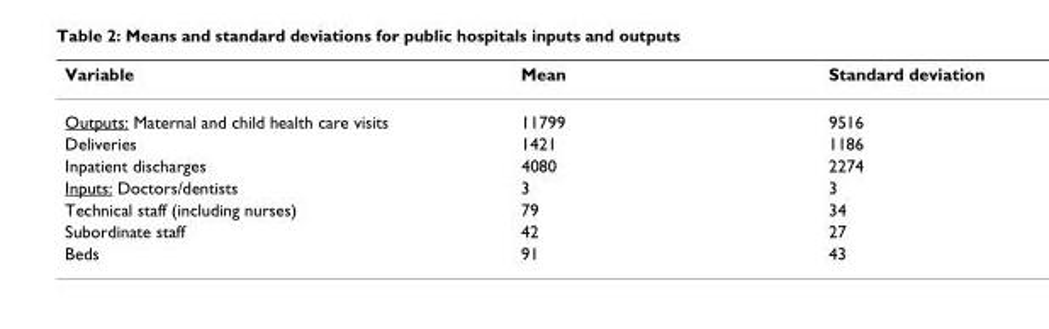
<table><thead><tr><td>Variable</td><td>Mean</td><td>Standard deviation</td></tr></thead><tbody><tr><td>Outputs: Maternal and child health care visits</td><td>11799</td><td>9516</td></tr><tr><td>Deliveries</td><td>1421</td><td>1186</td></tr><tr><td>Inpatient discharges</td><td>4080</td><td>2274</td></tr><tr><td>Inputs: Doctors/dentists</td><td>3</td><td>3</td></tr><tr><td>Technical staff (including nurses)</td><td>79</td><td>34</td></tr><tr><td>Subordinate staff</td><td>42</td><td>27</td></tr><tr><td>Beds</td><td>91</td><td>43</td></tr></tbody></table>